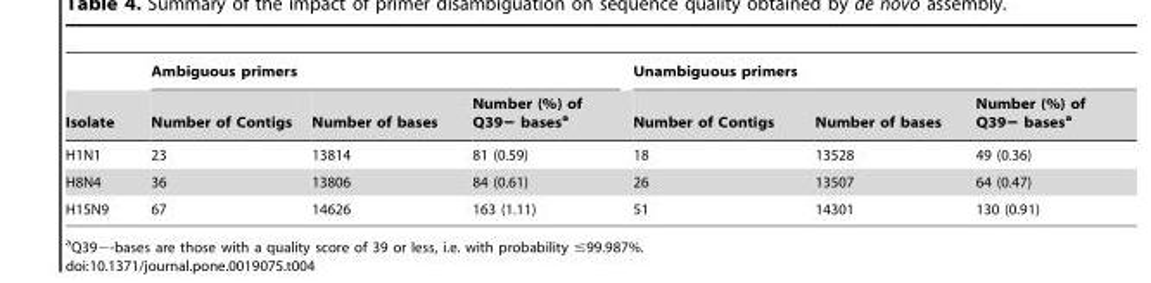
<table><thead><tr><td rowspan="2">Isolate</td><td colspan="3">Ambiguous primers</td><td colspan="3">Unambiguous primers</td></tr><tr><td>Number of Contigs</td><td>Number of bases</td><td>Number (%) of Q39− bases<sup>a</sup></td><td>Number of Contigs</td><td>Number of bases</td><td>Number (%) of Q39− bases<sup>a</sup></td></tr></thead><tbody><tr><td>H1N1</td><td>23</td><td>13814</td><td>81 (0.59)</td><td>18</td><td>13528</td><td>49 (0.36)</td></tr><tr><td>H8N4</td><td>36</td><td>13806</td><td>84 (0.61)</td><td>26</td><td>13507</td><td>64 (0.47)</td></tr><tr><td>H15N9</td><td>67</td><td>14626</td><td>163 (1.11)</td><td>51</td><td>14301</td><td>130 (0.91)</td></tr></tbody></table>